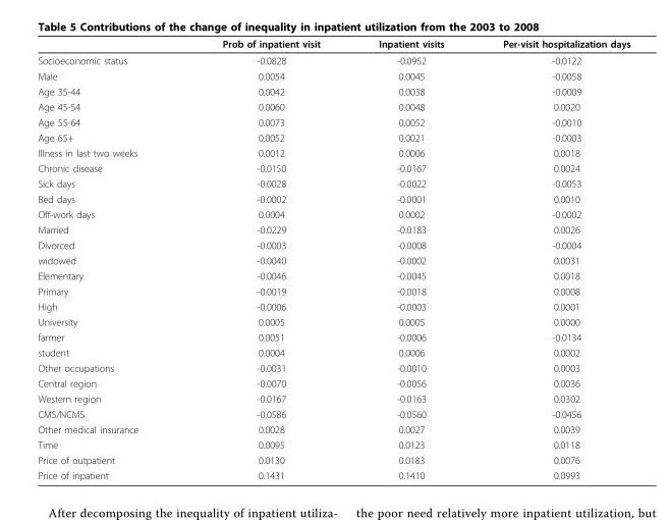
<table><thead><tr><td></td><td>Prob of inpatient visit</td><td>Inpatient visits</td><td>Per-visit hospitalization days</td></tr></thead><tbody><tr><td>Socioeconomic status</td><td>-0.0828</td><td>-0.0952</td><td>-0.0122</td></tr><tr><td>Male</td><td>0.0054</td><td>0.0045</td><td>-0.0058</td></tr><tr><td>Age 35-44</td><td>0.0042</td><td>0.0038</td><td>-0.0009</td></tr><tr><td>Age 45-54</td><td>0.0060</td><td>0.0048</td><td>0.0020</td></tr><tr><td>Age 55-64</td><td>0.0073</td><td>0.0052</td><td>-0.0010</td></tr><tr><td>Age 65+</td><td>0.0052</td><td>0.0021</td><td>-0.0003</td></tr><tr><td>Illness in last two weeks</td><td>0.0012</td><td>0.0006</td><td>0.0018</td></tr><tr><td>Chronic disease</td><td>-0.0150</td><td>-0.0167</td><td>0.0024</td></tr><tr><td>Sick days</td><td>-0.0028</td><td>-0.0022</td><td>-0.0053</td></tr><tr><td>Bed days</td><td>-0.0002</td><td>-0.0001</td><td>0.0010</td></tr><tr><td>Off-work days</td><td>0.0004</td><td>0.0002</td><td>-0.0002</td></tr><tr><td>Married</td><td>-0.0229</td><td>-0.0183</td><td>0.0026</td></tr><tr><td>Divorced</td><td>-0.0003</td><td>-0.0008</td><td>-0.0004</td></tr><tr><td>widowed</td><td>-0.0040</td><td>-0.0002</td><td>0.0031</td></tr><tr><td>Elementary</td><td>-0.0046</td><td>-0.0045</td><td>0.0018</td></tr><tr><td>Primary</td><td>-0.0019</td><td>-0.0018</td><td>0.0008</td></tr><tr><td>High</td><td>-0.0006</td><td>-0.0003</td><td>0.0001</td></tr><tr><td>University</td><td>0.0005</td><td>0.0005</td><td>0.0000</td></tr><tr><td>farmer</td><td>0.0051</td><td>-0.0006</td><td>-0.0134</td></tr><tr><td>student</td><td>0.0004</td><td>0.0006</td><td>0.0002</td></tr><tr><td>Other occupations</td><td>-0.0031</td><td>-0.0010</td><td>0.0003</td></tr><tr><td>Central region</td><td>-0.0070</td><td>-0.0056</td><td>0.0036</td></tr><tr><td>Western region</td><td>-0.0167</td><td>-0.0163</td><td>0.0302</td></tr><tr><td>CMS/NCMS</td><td>-0.0586</td><td>-0.0560</td><td>-0.0456</td></tr><tr><td>Other medical insurance</td><td>0.0028</td><td>0.0027</td><td>0.0039</td></tr><tr><td>Time</td><td>0.0095</td><td>0.0123</td><td>0.0118</td></tr><tr><td>Price of outpatient</td><td>0.0130</td><td>0.0183</td><td>0.0076</td></tr><tr><td>Price of inpatient</td><td>0.1431</td><td>0.1410</td><td>0.0993</td></tr></tbody></table>